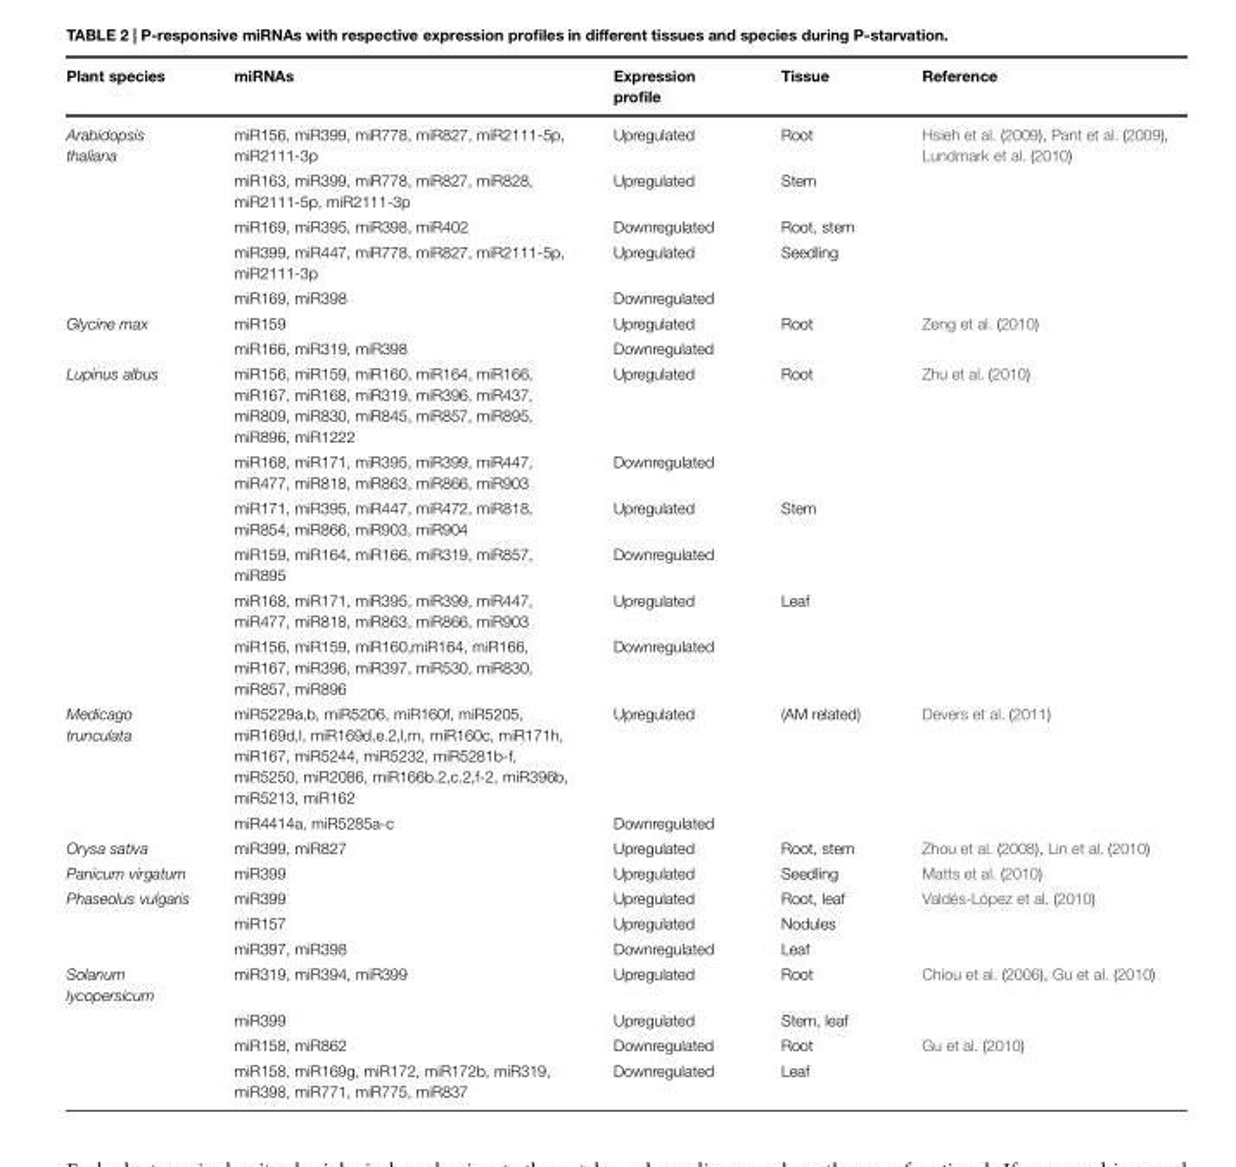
<table><thead><tr><td>Plant species</td><td>miRNAs</td><td>Expression profile</td><td>Tissue</td><td>Reference</td></tr></thead><tbody><tr><td rowspan="5">Arabidopsis thaliana</td><td>miR156, miR399, miR778, miR827, miR2111-5p, miR2111-3p</td><td>Upregulated</td><td>Root</td><td>Hsieh et al. (2009), Pant et al. (2009), Lundmark et al. (2010)</td></tr><tr><td>miR163, miR399, miR778, miR827, miR828, miR2111-5p, miR2111-3p</td><td>Upregulated</td><td>Stem</td><td></td></tr><tr><td>miR169, miR395, miR398, miR402</td><td>Downregulated</td><td>Root, stem</td><td></td></tr><tr><td>miR399, miR447, miR778, miR827, miR2111-5p, miR2111-3p</td><td>Upregulated</td><td>Seedling</td><td></td></tr><tr><td>miR169, miR398</td><td>Downregulated</td><td></td><td></td></tr><tr><td rowspan="2">Glycine max</td><td>miR159</td><td>Upregulated</td><td>Root</td><td>Zeng et al. (2010)</td></tr><tr><td>miR166, miR319, miR398</td><td>Downregulated</td><td></td><td></td></tr><tr><td rowspan="6">Lupinus albus</td><td>miR156, miR159, miR160, miR164, miR166, miR167, miR168, miR319, miR396, miR437, miR809, miR830, miR845, miR857, miR895, miR896, miR1222</td><td>Upregulated</td><td>Root</td><td>Zhu et al. (2010)</td></tr><tr><td>miR168, miR171, miR395, miR399, miR447, miR477, miR818, miR863, miR866, miR903</td><td>Downregulated</td><td></td><td></td></tr><tr><td>miR171, miR395, miR447, miR472, miR818, miR854, miR866, miR903, miR904</td><td>Upregulated</td><td>Stem</td><td></td></tr><tr><td>miR159, miR164, miR166, miR319, miR857, miR895</td><td>Downregulated</td><td></td><td></td></tr><tr><td>miR168, miR171, miR395, miR399, miR447, miR477, miR818, miR863, miR866, miR903</td><td>Upregulated</td><td>Leaf</td><td></td></tr><tr><td>miR156, miR159, miR160,miR164, miR166, miR167, miR396, miR397, miR530, miR830, miR857, miR896</td><td>Downregulated</td><td></td><td></td></tr><tr><td rowspan="2">Medicago trunculata</td><td>miR5229a,b, miR5206, miR160f, miR5205, miR169d,l, miR169d,e.2,l,m, miR160c, miR171h, miR167, miR5244, miR5232, miR5281b-f, miR5250, miR2086, miR166b.2,c.2,f-2, miR396b, miR5213, miR162</td><td>Upregulated</td><td>(AM related)</td><td>Devers et al. (2011)</td></tr><tr><td>miR4414a, miR5285a-c</td><td>Downregulated</td><td></td><td></td></tr><tr><td>Orysa sativa</td><td>miR399, miR827</td><td>Upregulated</td><td>Root, stem</td><td>Zhou et al. (2008), Lin et al. (2010)</td></tr><tr><td>Panicum virgatum</td><td>miR399</td><td>Upregulated</td><td>Seedling</td><td>Matts et al. (2010)</td></tr><tr><td rowspan="3">Phaseolus vulgaris</td><td>miR399</td><td>Upregulated</td><td>Root, leaf</td><td>Valdés-López et al. (2010)</td></tr><tr><td>miR157</td><td>Upregulated</td><td>Nodules</td><td></td></tr><tr><td>miR397, miR398</td><td>Downregulated</td><td>Leaf</td><td></td></tr><tr><td rowspan="4">Solanum lycopersicum</td><td>miR319, miR394, miR399</td><td>Upregulated</td><td>Root</td><td>Chiou et al. (2006), Gu et al. (2010)</td></tr><tr><td>miR399</td><td>Upregulated</td><td>Stem, leaf</td><td></td></tr><tr><td>miR158, miR862</td><td>Downregulated</td><td>Root</td><td>Gu et al. (2010)</td></tr><tr><td>miR158, miR169g, miR172, miR172b, miR319, miR398, miR771, miR775, miR837</td><td>Downregulated</td><td>Leaf</td><td></td></tr></tbody></table>